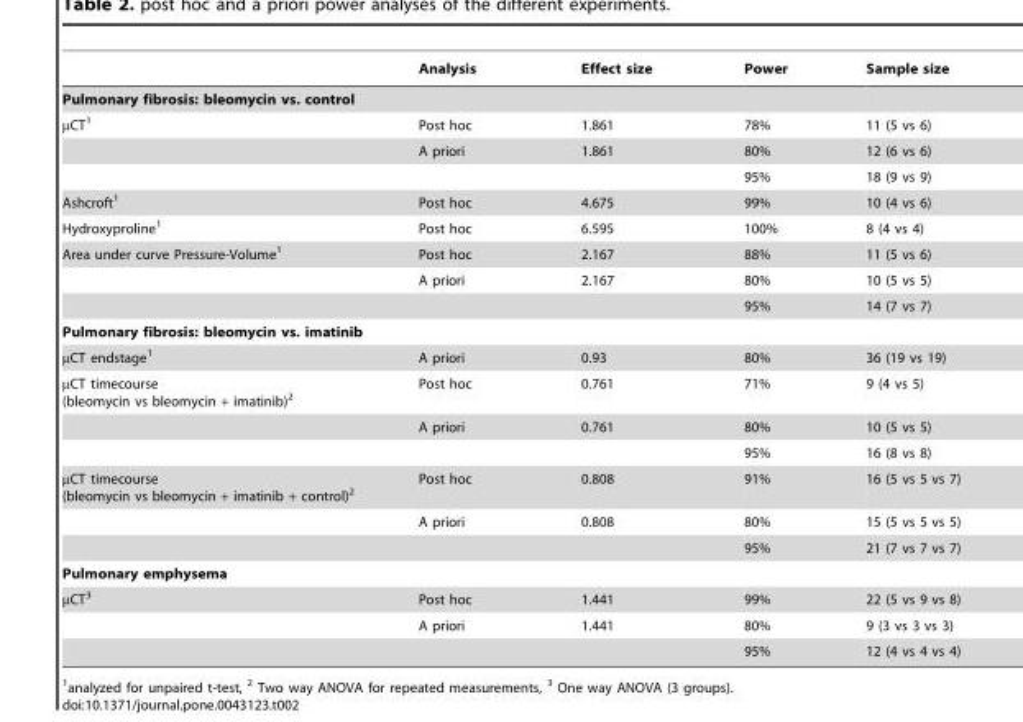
<table><thead><tr><td></td><td>Analysis</td><td>Effect size</td><td>Power</td><td>Sample size</td></tr></thead><tbody><tr><td colspan="5">Pulmonary fibrosis: bleomycin vs. control</td></tr><tr><td rowspan="3">µCT<sup>1</sup></td><td>Post hoc</td><td>1.861</td><td>78%</td><td>11 (5 vs 6)</td></tr><tr><td>A priori</td><td>1.861</td><td>80%</td><td>12 (6 vs 6)</td></tr><tr><td></td><td></td><td>95%</td><td>18 (9 vs 9)</td></tr><tr><td>Ashcroft<sup>1</sup></td><td>Post hoc</td><td>4.675</td><td>99%</td><td>10 (4 vs 6)</td></tr><tr><td>Hydroxyproline<sup>1</sup></td><td>Post hoc</td><td>6.595</td><td>100%</td><td>8 (4 vs 4)</td></tr><tr><td rowspan="3">Area under curve Pressure-Volume<sup>1</sup></td><td>Post hoc</td><td>2.167</td><td>88%</td><td>11 (5 vs 6)</td></tr><tr><td>A priori</td><td>2.167</td><td>80%</td><td>10 (5 vs 5)</td></tr><tr><td></td><td></td><td>95%</td><td>14 (7 vs 7)</td></tr><tr><td colspan="5">Pulmonary fibrosis: bleomycin vs. imatinib</td></tr><tr><td>µCT endstage<sup>1</sup></td><td>A priori</td><td>0.93</td><td>80%</td><td>36 (19 vs 19)</td></tr><tr><td rowspan="3">µCT timecourse (bleomycin vs bleomycin + imatinib)<sup>2</sup></td><td>Post hoc</td><td>0.761</td><td>71%</td><td>9 (4 vs 5)</td></tr><tr><td>A priori</td><td>0.761</td><td>80%</td><td>10 (5 vs 5)</td></tr><tr><td></td><td></td><td>95%</td><td>16 (8 vs 8)</td></tr><tr><td rowspan="3">µCT timecourse (bleomycin vs bleomycin + imatinib + control)<sup>2</sup></td><td>Post hoc</td><td>0.808</td><td>91%</td><td>16 (5 vs 5 vs 7)</td></tr><tr><td>A priori</td><td>0.808</td><td>80%</td><td>15 (5 vs 5 vs 5)</td></tr><tr><td></td><td></td><td>95%</td><td>21 (7 vs 7 vs 7)</td></tr><tr><td colspan="5">Pulmonary emphysema</td></tr><tr><td rowspan="3">µCT<sup>3</sup></td><td>Post hoc</td><td>1.441</td><td>99%</td><td>22 (5 vs 9 vs 8)</td></tr><tr><td>A priori</td><td>1.441</td><td>80%</td><td>9 (3 vs 3 vs 3)</td></tr><tr><td></td><td></td><td>95%</td><td>12 (4 vs 4 vs 4)</td></tr></tbody></table>